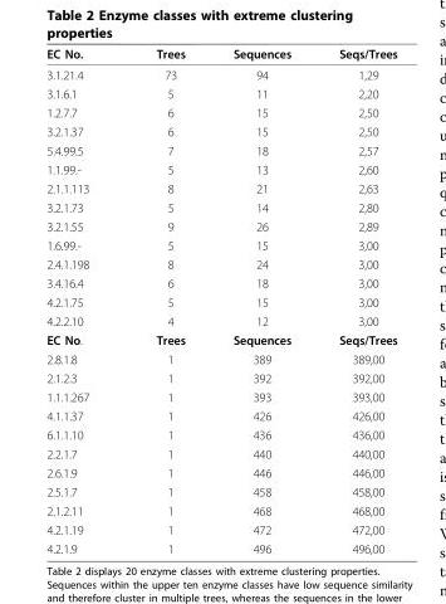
<table><thead><tr><td>EC No.</td><td>Trees</td><td>Sequences</td><td>Seqs/Trees</td></tr></thead><tbody><tr><td>3.1.21.4</td><td>73</td><td>94</td><td>1,29</td></tr><tr><td>3.1.6.1</td><td>5</td><td>11</td><td>2,20</td></tr><tr><td>1.2.7.7</td><td>6</td><td>15</td><td>2,50</td></tr><tr><td>3.2.1.37</td><td>6</td><td>15</td><td>2,50</td></tr><tr><td>5.4.99.5</td><td>7</td><td>18</td><td>2,57</td></tr><tr><td>1.1.99.-</td><td>5</td><td>13</td><td>2,60</td></tr><tr><td>2.1.1.113</td><td>8</td><td>21</td><td>2,63</td></tr><tr><td>3.2.1.73</td><td>5</td><td>14</td><td>2,80</td></tr><tr><td>3.2.1.55</td><td>9</td><td>26</td><td>2,89</td></tr><tr><td>1.6.99.-</td><td>5</td><td>15</td><td>3,00</td></tr><tr><td>2.4.1.198</td><td>8</td><td>24</td><td>3,00</td></tr><tr><td>3.4.16.4</td><td>6</td><td>18</td><td>3,00</td></tr><tr><td>4.2.1.75</td><td>5</td><td>15</td><td>3,00</td></tr><tr><td>4.2.2.10</td><td>4</td><td>12</td><td>3,00</td></tr><tr><td>EC No.</td><td>Trees</td><td>Sequences</td><td>Seqs/Trees</td></tr><tr><td>2.8.1.8</td><td>1</td><td>389</td><td>389,00</td></tr><tr><td>2.1.2.3</td><td>1</td><td>392</td><td>392,00</td></tr><tr><td>1.1.1.267</td><td>1</td><td>393</td><td>393,00</td></tr><tr><td>4.1.1.37</td><td>1</td><td>426</td><td>426,00</td></tr><tr><td>6.1.1.10</td><td>1</td><td>436</td><td>436,00</td></tr><tr><td>2.2.1.7</td><td>1</td><td>440</td><td>440,00</td></tr><tr><td>2.6.1.9</td><td>1</td><td>446</td><td>446,00</td></tr><tr><td>2.5.1.7</td><td>1</td><td>458</td><td>458,00</td></tr><tr><td>2.1.2.11</td><td>1</td><td>468</td><td>468,00</td></tr><tr><td>4.2.1.19</td><td>1</td><td>472</td><td>472,00</td></tr><tr><td>4.2.1.9</td><td>1</td><td>496</td><td>496,00</td></tr></tbody></table>